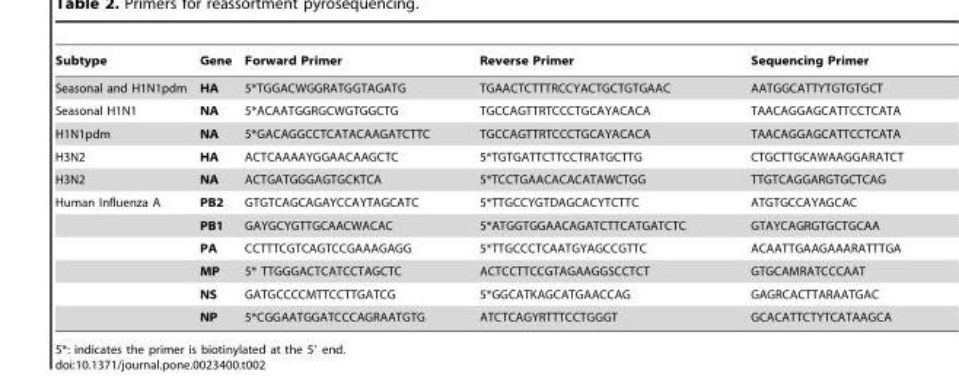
<table><thead><tr><td>Subtype</td><td>Gene</td><td>Forward Primer</td><td>Reverse Primer</td><td>Sequencing Primer</td></tr></thead><tbody><tr><td>Seasonal and H1N1pdm</td><td>HA</td><td>5*TGGACWGGRATGGTAGATG</td><td>TGAACTCTTTRCCYACTGCTGTGAAC</td><td>AATGGCATTYTGTGTGCT</td></tr><tr><td>Seasonal H1N1</td><td>NA</td><td>5*ACAATGGRGCWGTGGCTG</td><td>TGCCAGTTRTCCCTGCAYACACA</td><td>TAACAGGAGCATTCCTCATA</td></tr><tr><td>H1N1pdm</td><td>NA</td><td>5*GACAGGCCTCATACAAGATCTTC</td><td>TGCCAGTTRTCCCTGCAYACACA</td><td>TAACAGGAGCATTCCTCATA</td></tr><tr><td>H3N2</td><td>HA</td><td>ACTCAAAAYGGAACAAGCTC</td><td>5*TGTGATTCTTCCTRATGCTTG</td><td>CTGCTTGCAWAAGGARATCT</td></tr><tr><td>H3N2</td><td>NA</td><td>ACTGATGGGAGTGCKTCA</td><td>5*TCCTGAACACACATAWCTGG</td><td>TTGTCAGGARGTGCTCAG</td></tr><tr><td rowspan="6">Human Influenza A</td><td>PB2</td><td>GTGTCAGCAGAYCCAYTAGCATC</td><td>5*TTGCCYGTDAGCACYTCTTC</td><td>ATGTGCCAYAGCAC</td></tr><tr><td>PB1</td><td>GAYGCYGTTGCAACWACAC</td><td>5*ATGGTGGAACAGATCTTCATGATCTC</td><td>GTAYCAGRGTGCTGCAA</td></tr><tr><td>PA</td><td>CCTTTCGTCAGTCCGAAAGAGG</td><td>5*TTGCCCTCAATGYAGCCGTTC</td><td>ACAATTGAAGAAARATTTGA</td></tr><tr><td>MP</td><td>5* TTGGGACTCATCCTAGCTC</td><td>ACTCCTTCCGTAGAAGGSCCTCT</td><td>GTGCAMRATCCCAAT</td></tr><tr><td>NS</td><td>GATGCCCCMTTCCTTGATCG</td><td>5*GGCATKAGCATGAACCAG</td><td>GAGRCACTTARAATGAC</td></tr><tr><td>NP</td><td>5*CGGAATGGATCCCAGRAATGTG</td><td>ATCTCAGYRTTTCCTGGGT</td><td>GCACATTCTYTCATAAGCA</td></tr></tbody></table>